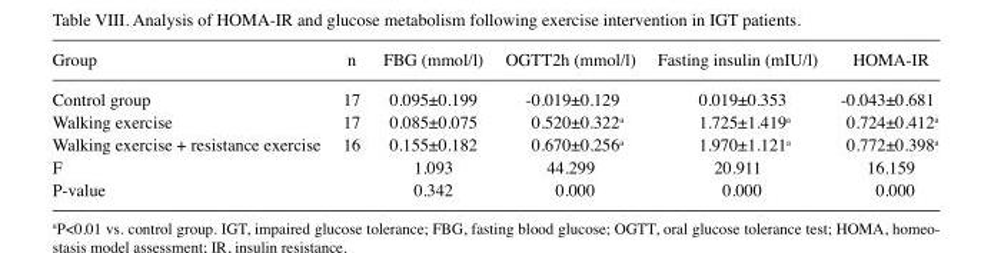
<table><thead><tr><td>Group</td><td>n</td><td>FBG (mmol/l)</td><td>OGTT2h (mmol/l)</td><td>Fasting insulin (mIU/l)</td><td>HOMA-IR</td></tr></thead><tbody><tr><td>Control group</td><td>17</td><td>0.095±0.199</td><td>-0.019±0.129</td><td>0.019±0.353</td><td>-0.043±0.681</td></tr><tr><td>Walking exercise</td><td>17</td><td>0.085±0.075</td><td>0.520±0.322<sup>a</sup></td><td>1.725±1.419<sup>a</sup></td><td>0.724±0.412<sup>a</sup></td></tr><tr><td>Walking exercise + resistance exercise</td><td>16</td><td>0.155±0.182</td><td>0.670±0.256<sup>a</sup></td><td>1.970±1.121<sup>a</sup></td><td>0.772±0.398<sup>a</sup></td></tr><tr><td>F</td><td></td><td>1.093</td><td>44.299</td><td>20.911</td><td>16.159</td></tr><tr><td>P-value</td><td></td><td>0.342</td><td>0.000</td><td>0.000</td><td>0.000</td></tr></tbody></table>